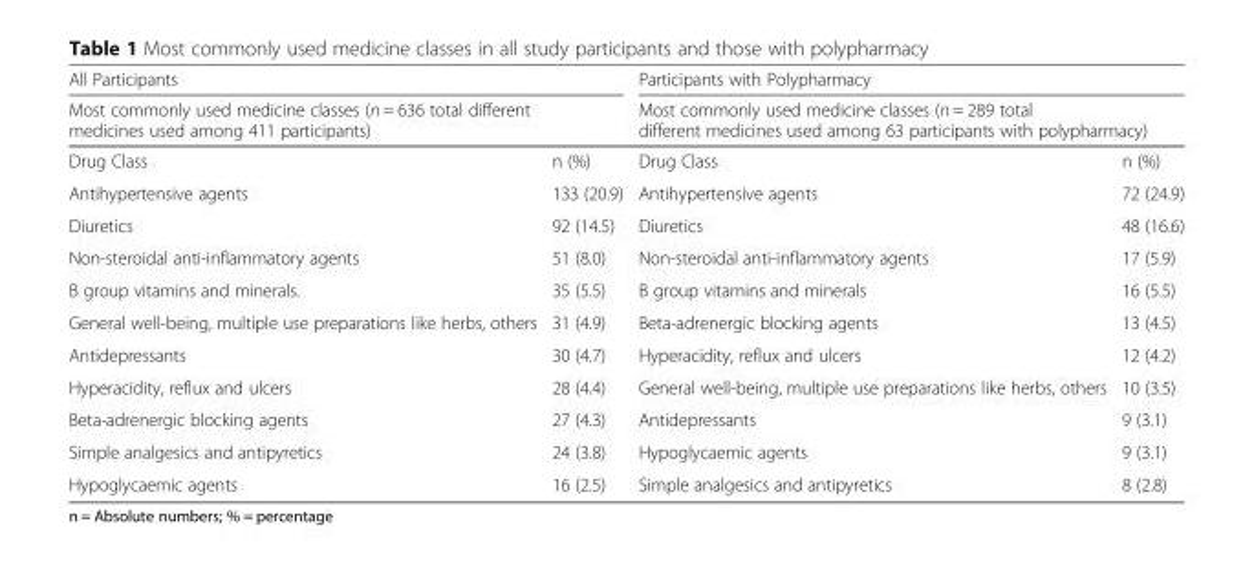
<table><thead><tr><td rowspan="2" colspan="2">All Participants Most commonly used medicine classes (n = 636 total different medicines used among 411 participants)</td><td rowspan="2" colspan="2">Participants with Polypharmacy Most commonly used medicine classes (n = 289 total different medicines used among 63 participants with polypharmacy)</td></tr><tr></tr><tr><td>Drug Class</td><td>n (%)</td><td>Drug Class</td><td>n (%)</td></tr></thead><tbody><tr><td>Antihypertensive agents</td><td>133 (20.9)</td><td>Antihypertensive agents</td><td>72 (24.9)</td></tr><tr><td>Diuretics</td><td>92 (14.5)</td><td>Diuretics</td><td>48 (16.6)</td></tr><tr><td>Non-steroidal anti-inflammatory agents</td><td>51 (8.0)</td><td>Non-steroidal anti-inflammatory agents</td><td>17 (5.9)</td></tr><tr><td>B group vitamins and minerals.</td><td>35 (5.5)</td><td>B group vitamins and minerals</td><td>16 (5.5)</td></tr><tr><td>General well-being, multiple use preparations like herbs, others</td><td>31 (4.9)</td><td>Beta-adrenergic blocking agents</td><td>13 (4.5)</td></tr><tr><td>Antidepressants</td><td>30 (4.7)</td><td>Hyperacidity, reflux and ulcers</td><td>12 (4.2)</td></tr><tr><td>Hyperacidity, reflux and ulcers</td><td>28 (4.4)</td><td>General well-being, multiple use preparations like herbs, others</td><td>10 (3.5)</td></tr><tr><td>Beta-adrenergic blocking agents</td><td>27 (4.3)</td><td>Antidepressants</td><td>9 (3.1)</td></tr><tr><td>Simple analgesics and antipyretics</td><td>24 (3.8)</td><td>Hypoglycaemic agents</td><td>9 (3.1)</td></tr><tr><td>Hypoglycaemic agents</td><td>16 (2.5)</td><td>Simple analgesics and antipyretics</td><td>8 (2.8)</td></tr></tbody></table>